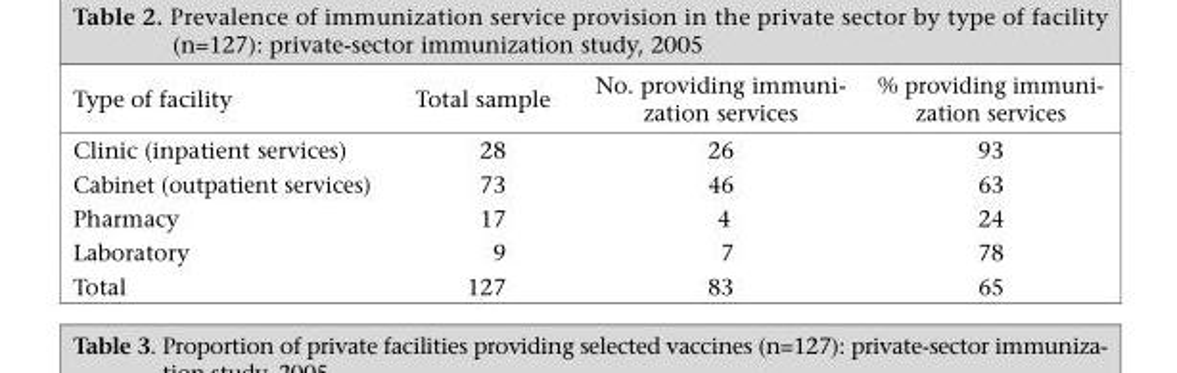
<table><thead><tr><td>Type of facility</td><td>Total sample</td><td>No. providing immuni- zation services</td><td>% providing immuni- zation services</td></tr></thead><tbody><tr><td>Clinic (inpatient services)</td><td>28</td><td>26</td><td>93</td></tr><tr><td>Cabinet (outpatient services)</td><td>73</td><td>46</td><td>63</td></tr><tr><td>Pharmacy</td><td>17</td><td>4</td><td>24</td></tr><tr><td>Laboratory</td><td>9</td><td>7</td><td>78</td></tr><tr><td>Total</td><td>127</td><td>83</td><td>65</td></tr></tbody></table>